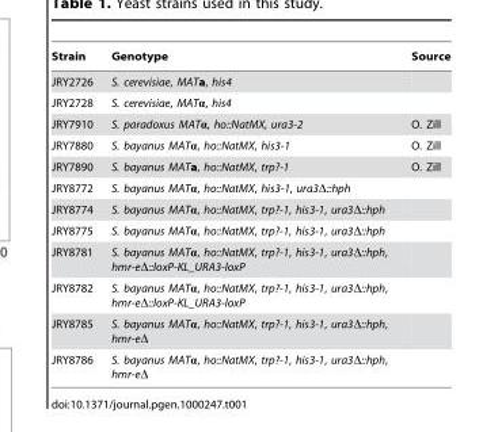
<table><thead><tr><td>Strain</td><td>Genotype</td><td>Source</td></tr></thead><tbody><tr><td>JRY2726</td><td>S. cerevisiae, MATa, his4</td><td></td></tr><tr><td>JRY2728</td><td>S. cerevisiae, MATα, his4</td><td></td></tr><tr><td>JRY7910</td><td>S. paradoxus MATα, ho::NatMX, ura3-2</td><td>O. Zill</td></tr><tr><td>JRY7880</td><td>S. bayanus MATα, ho::NatMX, his3-1</td><td>O. Zill</td></tr><tr><td>JRY7890</td><td>S. bayanus MATa, ho::NatMX, trp?-1</td><td>O. Zill</td></tr><tr><td>JRY8772</td><td>S. bayanus MATα, ho::NatMX, his3-1, ura3Δ::hph</td><td></td></tr><tr><td>JRY8774</td><td>S. bayanus MATα, ho::NatMX, trp?-1, his3-1, ura3Δ::hph</td><td></td></tr><tr><td>JRY8775</td><td>S. bayanus MATα, ho::NatMX, trp?-1, his3-1, ura3Δ::hph</td><td></td></tr><tr><td>JRY8781</td><td>S. bayanus MATα, ho::NatMX, trp?-1, his3-1, ura3Δ::hph, hmr-eΔ::loxP-KL_URA3-loxP</td><td></td></tr><tr><td>JRY8782</td><td>S. bayanus MATα, ho::NatMX, trp?-1, his3-1, ura3Δ::hph, hmr-eΔ::loxP-KL_URA3-loxP</td><td></td></tr><tr><td>JRY8785</td><td>S. bayanus MATα, ho::NatMX, trp?-1, his3-1, ura3Δ::hph, hmr-eΔ</td><td></td></tr><tr><td>JRY8786</td><td>S. bayanus MATα, ho::NatMX, trp?-1, his3-1, ura3Δ::hph, hmr-eΔ</td><td></td></tr></tbody></table>